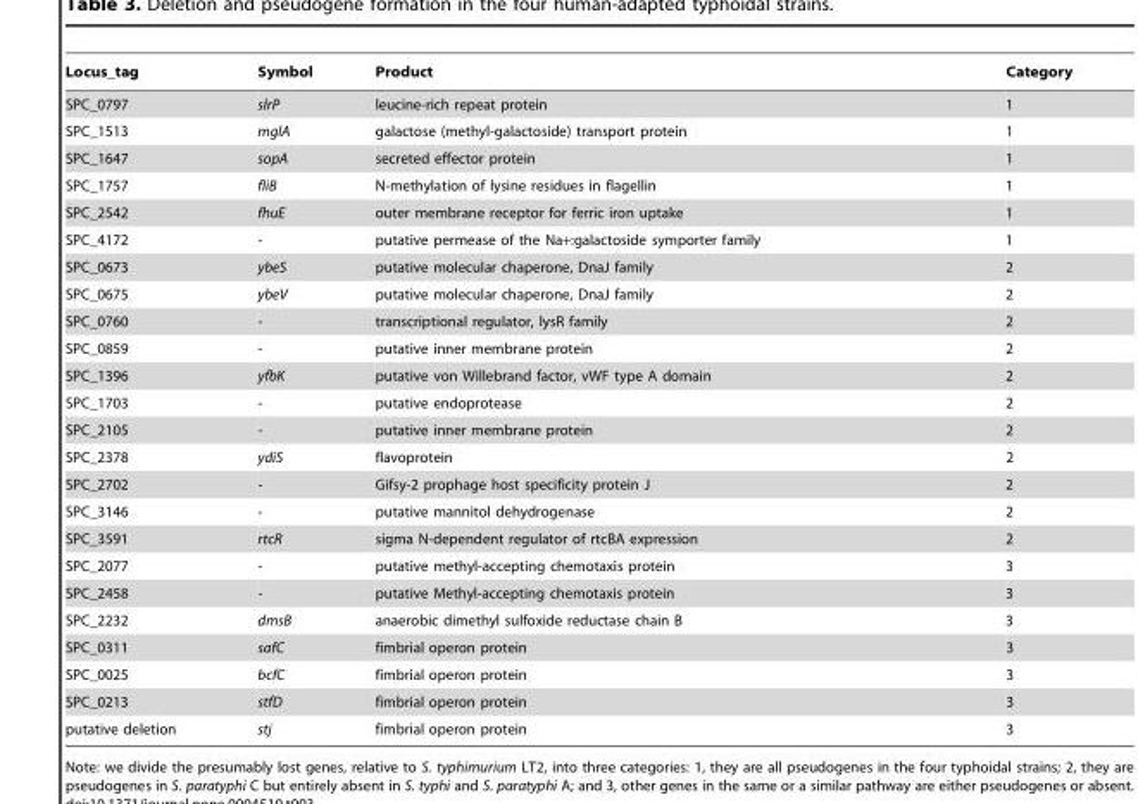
<table><thead><tr><td>Locus_tag</td><td>Symbol</td><td>Product</td><td>Category</td></tr></thead><tbody><tr><td>SPC_0797</td><td>slrP</td><td>leucine-rich repeat protein</td><td>1</td></tr><tr><td>SPC_1513</td><td>mglA</td><td>galactose (methyl-galactoside) transport protein</td><td>1</td></tr><tr><td>SPC_1647</td><td>sopA</td><td>secreted effector protein</td><td>1</td></tr><tr><td>SPC_1757</td><td>fliB</td><td>N-methylation of lysine residues in flagellin</td><td>1</td></tr><tr><td>SPC_2542</td><td>fhuE</td><td>outer membrane receptor for ferric iron uptake</td><td>1</td></tr><tr><td>SPC_4172</td><td>-</td><td>putative permease of the Na+:galactoside symporter family</td><td>1</td></tr><tr><td>SPC_0673</td><td>ybeS</td><td>putative molecular chaperone, DnaJ family</td><td>2</td></tr><tr><td>SPC_0675</td><td>ybeV</td><td>putative molecular chaperone, DnaJ family</td><td>2</td></tr><tr><td>SPC_0760</td><td>-</td><td>transcriptional regulator, lysR family</td><td>2</td></tr><tr><td>SPC_0859</td><td>-</td><td>putative inner membrane protein</td><td>2</td></tr><tr><td>SPC_1396</td><td>yfbK</td><td>putative von Willebrand factor, vWF type A domain</td><td>2</td></tr><tr><td>SPC_1703</td><td>-</td><td>putative endoprotease</td><td>2</td></tr><tr><td>SPC_2105</td><td>-</td><td>putative inner membrane protein</td><td>2</td></tr><tr><td>SPC_2378</td><td>ydiS</td><td>flavoprotein</td><td>2</td></tr><tr><td>SPC_2702</td><td>-</td><td>Gifsy-2 prophage host specificity protein J</td><td>2</td></tr><tr><td>SPC_3146</td><td>-</td><td>putative mannitol dehydrogenase</td><td>2</td></tr><tr><td>SPC_3591</td><td>rtcR</td><td>sigma N-dependent regulator of rtcBA expression</td><td>2</td></tr><tr><td>SPC_2077</td><td>-</td><td>putative methyl-accepting chemotaxis protein</td><td>3</td></tr><tr><td>SPC_2458</td><td>-</td><td>putative Methyl-accepting chemotaxis protein</td><td>3</td></tr><tr><td>SPC_2232</td><td>dmsB</td><td>anaerobic dimethyl sulfoxide reductase chain B</td><td>3</td></tr><tr><td>SPC_0311</td><td>safC</td><td>fimbrial operon protein</td><td>3</td></tr><tr><td>SPC_0025</td><td>bcfC</td><td>fimbrial operon protein</td><td>3</td></tr><tr><td>SPC_0213</td><td>stfD</td><td>fimbrial operon protein</td><td>3</td></tr><tr><td>putative deletion</td><td>stj</td><td>fimbrial operon protein</td><td>3</td></tr></tbody></table>